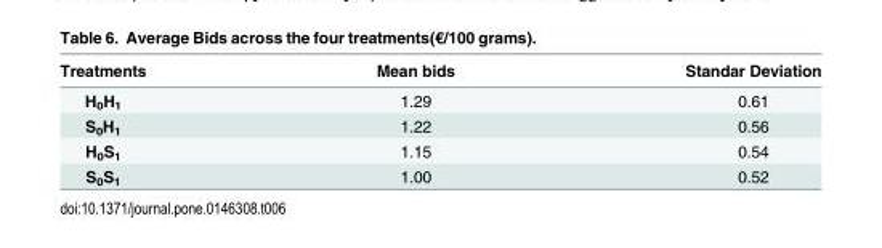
<table><thead><tr><td>Treatments</td><td>Mean bids</td><td>Standar Deviation</td></tr></thead><tbody><tr><td>H<sub>0</sub>H<sub>1</sub></td><td>1.29</td><td>0.61</td></tr><tr><td>S<sub>0</sub>H<sub>1</sub></td><td>1.22</td><td>0.56</td></tr><tr><td>H<sub>0</sub>S<sub>1</sub></td><td>1.15</td><td>0.54</td></tr><tr><td>S<sub>0</sub>S<sub>1</sub></td><td>1.00</td><td>0.52</td></tr></tbody></table>